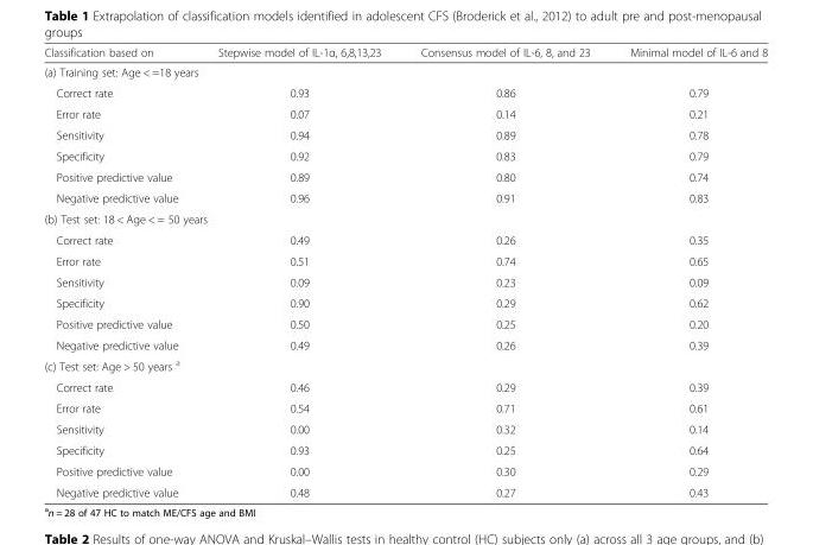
<table><thead><tr><td>Classification based on</td><td>Stepwise model of IL-1α, 6,8,13,23</td><td>Consensus model of IL-6, 8, and 23</td><td>Minimal model of IL-6 and 8</td></tr></thead><tbody><tr><td colspan="4">(a) Training set: Age &lt; =18 years</td></tr><tr><td>Correct rate</td><td>0.93</td><td>0.86</td><td>0.79</td></tr><tr><td>Error rate</td><td>0.07</td><td>0.14</td><td>0.21</td></tr><tr><td>Sensitivity</td><td>0.94</td><td>0.89</td><td>0.78</td></tr><tr><td>Specificity</td><td>0.92</td><td>0.83</td><td>0.79</td></tr><tr><td>Positive predictive value</td><td>0.89</td><td>0.80</td><td>0.74</td></tr><tr><td>Negative predictive value</td><td>0.96</td><td>0.91</td><td>0.83</td></tr><tr><td colspan="4">(b) Test set: 18 &lt; Age &lt; = 50 years</td></tr><tr><td>Correct rate</td><td>0.49</td><td>0.26</td><td>0.35</td></tr><tr><td>Error rate</td><td>0.51</td><td>0.74</td><td>0.65</td></tr><tr><td>Sensitivity</td><td>0.09</td><td>0.23</td><td>0.09</td></tr><tr><td>Specificity</td><td>0.90</td><td>0.29</td><td>0.62</td></tr><tr><td>Positive predictive value</td><td>0.50</td><td>0.25</td><td>0.20</td></tr><tr><td>Negative predictive value</td><td>0.49</td><td>0.26</td><td>0.39</td></tr><tr><td colspan="4">(c) Test set: Age &gt; 50 years <sup>a</sup></td></tr><tr><td>Correct rate</td><td>0.46</td><td>0.29</td><td>0.39</td></tr><tr><td>Error rate</td><td>0.54</td><td>0.71</td><td>0.61</td></tr><tr><td>Sensitivity</td><td>0.00</td><td>0.32</td><td>0.14</td></tr><tr><td>Specificity</td><td>0.93</td><td>0.25</td><td>0.64</td></tr><tr><td>Positive predictive value</td><td>0.00</td><td>0.30</td><td>0.29</td></tr><tr><td>Negative predictive value</td><td>0.48</td><td>0.27</td><td>0.43</td></tr></tbody></table>